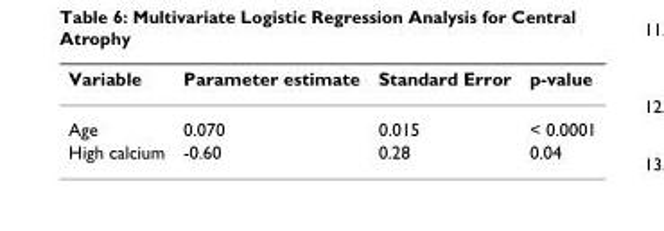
<table><thead><tr><td>Variable</td><td>Parameter estimate</td><td>Standard Error</td><td>p-value</td></tr></thead><tbody><tr><td>Age</td><td>0.070</td><td>0.015</td><td>&lt; 0.0001</td></tr><tr><td>High calcium</td><td>-0.60</td><td>0.28</td><td>0.04</td></tr></tbody></table>